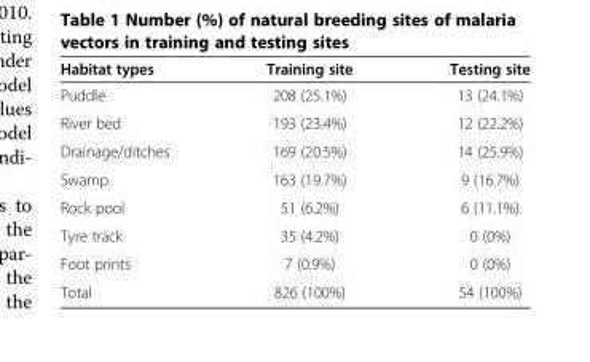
<table><thead><tr><td>Habitat types</td><td>Training site</td><td>Testing site</td></tr></thead><tbody><tr><td>Puddle</td><td>208 (25.1%)</td><td>13 (24.1%)</td></tr><tr><td>River bed</td><td>193 (23.4%)</td><td>12 (22.2%)</td></tr><tr><td>Drainage/ditches</td><td>169 (20.5%)</td><td>14 (25.9%)</td></tr><tr><td>Swamp</td><td>163 (19.7%)</td><td>9 (16.7%)</td></tr><tr><td>Rock pool</td><td>51 (6.2%)</td><td>6 (11.1%)</td></tr><tr><td>Tyre track</td><td>35 (4.2%)</td><td>0 (0%)</td></tr><tr><td>Foot prints</td><td>7 (0.9%)</td><td>0 (0%)</td></tr><tr><td>Total</td><td>826 (100%)</td><td>54 (100%)</td></tr></tbody></table>